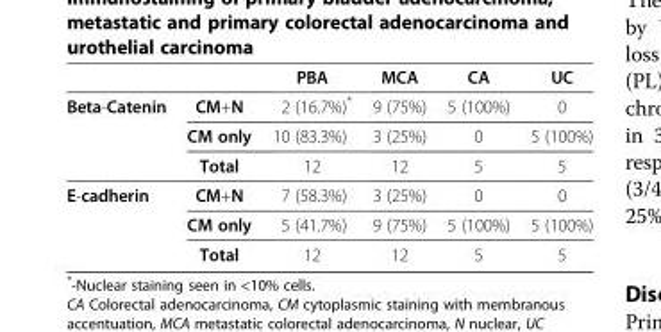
<table><thead><tr><td></td><td></td><td>PBA</td><td>MCA</td><td>CA</td><td>UC</td></tr></thead><tbody><tr><td rowspan="3">Beta-Catenin</td><td>CM+N</td><td>2 (16.7%)*</td><td>9 (75%)</td><td>5 (100%)</td><td>0</td></tr><tr><td>CM only</td><td>10 (83.3%)</td><td>3 (25%)</td><td>0</td><td>5 (100%)</td></tr><tr><td>Total</td><td>12</td><td>12</td><td>5</td><td>5</td></tr><tr><td rowspan="3">E-cadherin</td><td>CM+N</td><td>7 (58.3%)</td><td>3 (25%)</td><td>0</td><td>0</td></tr><tr><td>CM only</td><td>5 (41.7%)</td><td>9 (75%)</td><td>5 (100%)</td><td>5 (100%)</td></tr><tr><td>Total</td><td>12</td><td>12</td><td>5</td><td>5</td></tr></tbody></table>